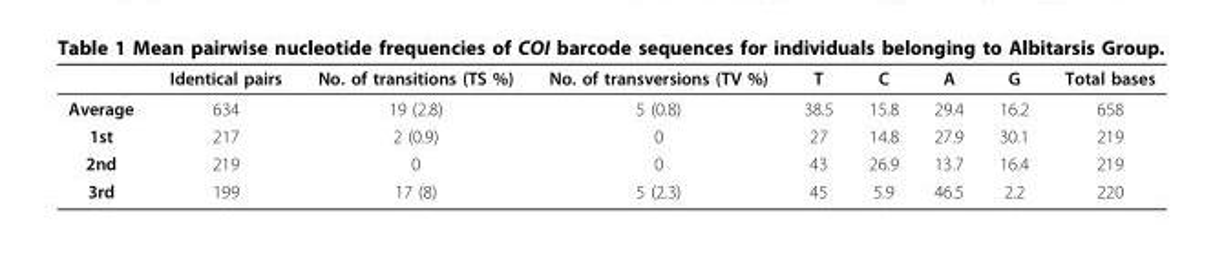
<table><thead><tr><td></td><td>Identical pairs</td><td>No. of transitions (TS %)</td><td>No. of transversions (TV %)</td><td>T</td><td>C</td><td>A</td><td>G</td><td>Total bases</td></tr></thead><tbody><tr><td>Average</td><td>634</td><td>19 (2.8)</td><td>5 (0.8)</td><td>38.5</td><td>15.8</td><td>29.4</td><td>16.2</td><td>658</td></tr><tr><td>1st</td><td>217</td><td>2 (0.9)</td><td>0</td><td>27</td><td>14.8</td><td>27.9</td><td>30.1</td><td>219</td></tr><tr><td>2nd</td><td>219</td><td>0</td><td>0</td><td>43</td><td>26.9</td><td>13.7</td><td>16.4</td><td>219</td></tr><tr><td>3rd</td><td>199</td><td>17 (8)</td><td>5 (2.3)</td><td>45</td><td>5.9</td><td>46.5</td><td>2.2</td><td>220</td></tr></tbody></table>